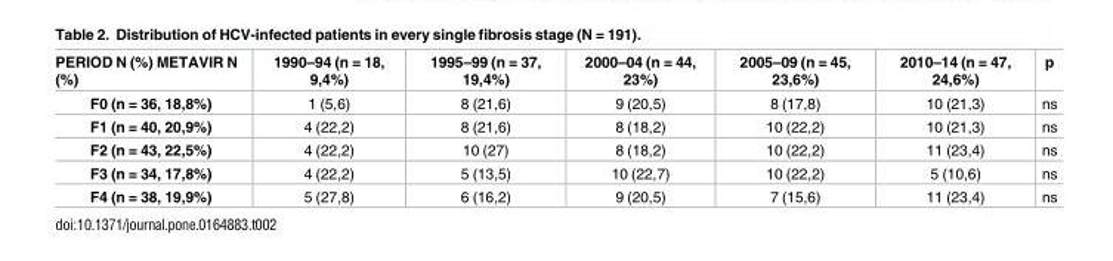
<table><thead><tr><td>PERIOD N (%) METAVIR N (%)</td><td>1990–94 (n = 18, 9,4%)</td><td>1995–99 (n = 37, 19,4%)</td><td>2000–04 (n = 44, 23%)</td><td>2005–09 (n = 45, 23,6%)</td><td>2010–14 (n = 47, 24,6%)</td><td>p</td></tr></thead><tbody><tr><td>F0 (n = 36, 18,8%)</td><td>1 (5,6)</td><td>8 (21,6)</td><td>9 (20,5)</td><td>8 (17,8)</td><td>10 (21,3)</td><td>ns</td></tr><tr><td>F1 (n = 40, 20,9%)</td><td>4 (22,2)</td><td>8 (21,6)</td><td>8 (18,2)</td><td>10 (22,2)</td><td>10 (21,3)</td><td>ns</td></tr><tr><td>F2 (n = 43, 22,5%)</td><td>4 (22,2)</td><td>10 (27)</td><td>8 (18,2)</td><td>10 (22,2)</td><td>11 (23,4)</td><td>ns</td></tr><tr><td>F3 (n = 34, 17,8%)</td><td>4 (22,2)</td><td>5 (13,5)</td><td>10 (22,7)</td><td>10 (22,2)</td><td>5 (10,6)</td><td>ns</td></tr><tr><td>F4 (n = 38, 19,9%)</td><td>5 (27,8)</td><td>6 (16,2)</td><td>9 (20,5)</td><td>7 (15,6)</td><td>11 (23,4)</td><td>ns</td></tr></tbody></table>